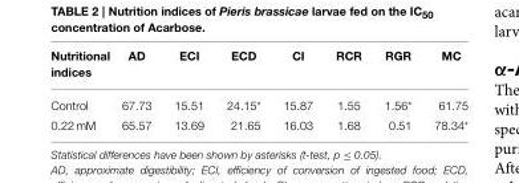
<table><thead><tr><td>Nutritional indices</td><td>AD</td><td>ECI</td><td>ECD</td><td>CI</td><td>RCR</td><td>RGR</td><td>MC</td></tr></thead><tbody><tr><td>Control</td><td>67.73</td><td>15.51</td><td>24.15*</td><td>15.87</td><td>1.55</td><td>1.56*</td><td>61.75</td></tr><tr><td>0.22 mM</td><td>65.57</td><td>13.69</td><td>21.65</td><td>16.03</td><td>1.68</td><td>0.51</td><td>78.34*</td></tr></tbody></table>